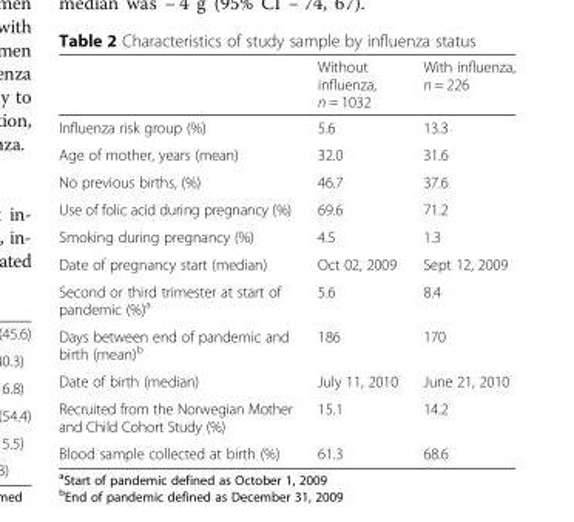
<table><thead><tr><td></td><td>Without influenza, n = 1032</td><td>With influenza, n = 226</td></tr></thead><tbody><tr><td>Influenza risk group (%)</td><td>5.6</td><td>13.3</td></tr><tr><td>Age of mother, years (mean)</td><td>32.0</td><td>31.6</td></tr><tr><td>No previous births, (%)</td><td>46.7</td><td>37.6</td></tr><tr><td>Use of folic acid during pregnancy (%)</td><td>69.6</td><td>71.2</td></tr><tr><td>Smoking during pregnancy (%)</td><td>4.5</td><td>1.3</td></tr><tr><td>Date of pregnancy start (median)</td><td>Oct 02, 2009</td><td>Sept 12, 2009</td></tr><tr><td>Second or third trimester at start of pandemic (%)<sup>a</sup></td><td>5.6</td><td>8.4</td></tr><tr><td>Days between end of pandemic and birth (mean)<sup>b</sup></td><td>186</td><td>170</td></tr><tr><td>Date of birth (median)</td><td>July 11, 2010</td><td>June 21, 2010</td></tr><tr><td>Recruited from the Norwegian Mother and Child Cohort Study (%)</td><td>15.1</td><td>14.2</td></tr><tr><td>Blood sample collected at birth (%)</td><td>61.3</td><td>68.6</td></tr></tbody></table>